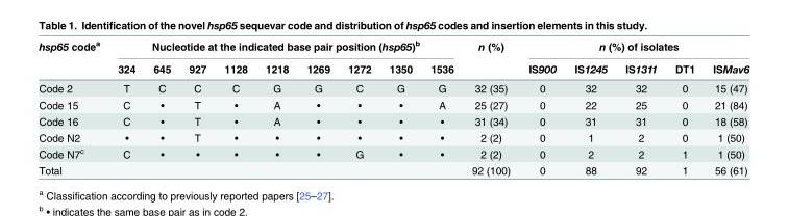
<table><thead><tr><td rowspan="2">hsp65 code<sup>a</sup></td><td colspan="9">Nucleotide at the indicated base pair position (hsp65)<sup>b</sup></td><td rowspan="2">n (%)</td><td colspan="5">n (%) of isolates</td></tr><tr><td>324</td><td>645</td><td>927</td><td>1128</td><td>1218</td><td>1269</td><td>1272</td><td>1350</td><td>1536</td><td>IS900</td><td>IS1245</td><td>IS1311</td><td>DT1</td><td>ISMav6</td></tr></thead><tbody><tr><td>Code 2</td><td>T</td><td>C</td><td>C</td><td>C</td><td>G</td><td>G</td><td>C</td><td>G</td><td>G</td><td>32 (35)</td><td>0</td><td>32</td><td>32</td><td>0</td><td>15 (47)</td></tr><tr><td>Code 15</td><td>C</td><td>•</td><td>T</td><td>•</td><td>A</td><td>•</td><td>•</td><td>•</td><td>A</td><td>25 (27)</td><td>0</td><td>22</td><td>25</td><td>0</td><td>21 (84)</td></tr><tr><td>Code 16</td><td>C</td><td>•</td><td>T</td><td>•</td><td>A</td><td>•</td><td>•</td><td>•</td><td>•</td><td>31 (34)</td><td>0</td><td>31</td><td>31</td><td>0</td><td>18 (58)</td></tr><tr><td>Code N2</td><td>•</td><td>•</td><td>T</td><td>•</td><td>•</td><td>•</td><td>•</td><td>•</td><td>•</td><td>2 (2)</td><td>0</td><td>1</td><td>2</td><td>0</td><td>1 (50)</td></tr><tr><td>Code N7<sup>c</sup></td><td>C</td><td>•</td><td>•</td><td>•</td><td>•</td><td>•</td><td>G</td><td>•</td><td>•</td><td>2 (2)</td><td>0</td><td>2</td><td>2</td><td>1</td><td>1 (50)</td></tr><tr><td>Total</td><td></td><td></td><td></td><td></td><td></td><td></td><td></td><td></td><td></td><td>92 (100)</td><td>0</td><td>88</td><td>92</td><td>1</td><td>56 (61)</td></tr></tbody></table>